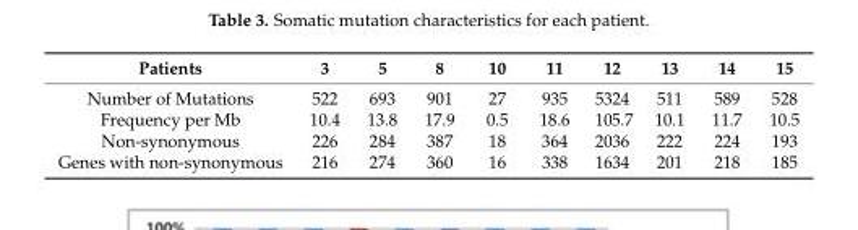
<table><thead><tr><td>Patients</td><td>3</td><td>5</td><td>8</td><td>10</td><td>11</td><td>12</td><td>13</td><td>14</td><td>15</td></tr></thead><tbody><tr><td>Number of Mutations</td><td>522</td><td>693</td><td>901</td><td>27</td><td>935</td><td>5324</td><td>511</td><td>589</td><td>528</td></tr><tr><td>Frequency per Mb</td><td>10.4</td><td>13.8</td><td>17.9</td><td>0.5</td><td>18.6</td><td>105.7</td><td>10.1</td><td>11.7</td><td>10.5</td></tr><tr><td>Non-synonymous</td><td>226</td><td>284</td><td>387</td><td>18</td><td>364</td><td>2036</td><td>222</td><td>224</td><td>193</td></tr><tr><td>Genes with non-synonymous</td><td>216</td><td>274</td><td>360</td><td>16</td><td>338</td><td>1634</td><td>201</td><td>218</td><td>185</td></tr></tbody></table>